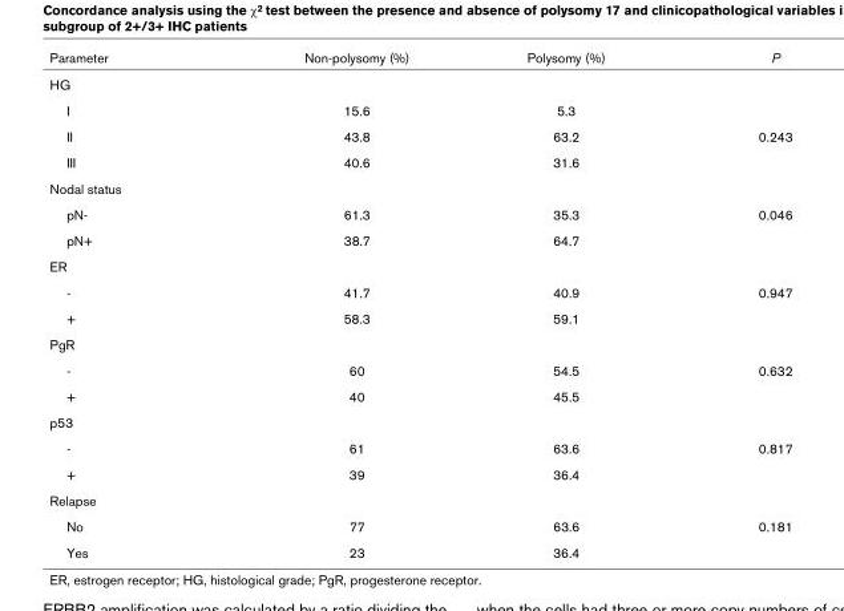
<table><thead><tr><td>Parameter</td><td>Non-polysomy (%)</td><td>Polysomy (%)</td><td>P</td></tr></thead><tbody><tr><td colspan="4">HG</td></tr><tr><td>I</td><td>15.6</td><td>5.3</td><td></td></tr><tr><td>II</td><td>43.8</td><td>63.2</td><td>0.243</td></tr><tr><td>III</td><td>40.6</td><td>31.6</td><td></td></tr><tr><td colspan="4">Nodal status</td></tr><tr><td>pN-</td><td>61.3</td><td>35.3</td><td>0.046</td></tr><tr><td>pN+</td><td>38.7</td><td>64.7</td><td></td></tr><tr><td colspan="4">ER</td></tr><tr><td>-</td><td>41.7</td><td>40.9</td><td>0.947</td></tr><tr><td>+</td><td>58.3</td><td>59.1</td><td></td></tr><tr><td colspan="4">PgR</td></tr><tr><td>-</td><td>60</td><td>54.5</td><td>0.632</td></tr><tr><td>+</td><td>40</td><td>45.5</td><td></td></tr><tr><td colspan="4">p53</td></tr><tr><td>-</td><td>61</td><td>63.6</td><td>0.817</td></tr><tr><td>+</td><td>39</td><td>36.4</td><td></td></tr><tr><td colspan="4">Relapse</td></tr><tr><td>No</td><td>77</td><td>63.6</td><td>0.181</td></tr><tr><td>Yes</td><td>23</td><td>36.4</td><td></td></tr></tbody></table>